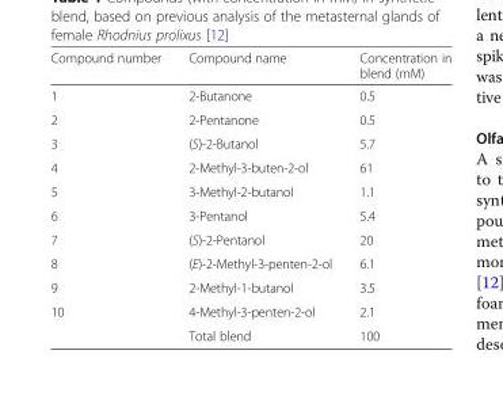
<table><thead><tr><td>Compound number</td><td>Compound name</td><td>Concentration in blend (mM)</td></tr></thead><tbody><tr><td>1</td><td>2-Butanone</td><td>0.5</td></tr><tr><td>2</td><td>2-Pentanone</td><td>0.5</td></tr><tr><td>3</td><td>(S)-2-Butanol</td><td>5.7</td></tr><tr><td>4</td><td>2-Methyl-3-buten-2-ol</td><td>61</td></tr><tr><td>5</td><td>3-Methyl-2-butanol</td><td>1.1</td></tr><tr><td>6</td><td>3-Pentanol</td><td>5.4</td></tr><tr><td>7</td><td>(S)-2-Pentanol</td><td>20</td></tr><tr><td>8</td><td>(E)-2-Methyl-3-penten-2-ol</td><td>6.1</td></tr><tr><td>9</td><td>2-Methyl-1-butanol</td><td>3.5</td></tr><tr><td rowspan="2">10</td><td>4-Methyl-3-penten-2-ol</td><td>2.1</td></tr><tr><td>Total blend</td><td>100</td></tr></tbody></table>